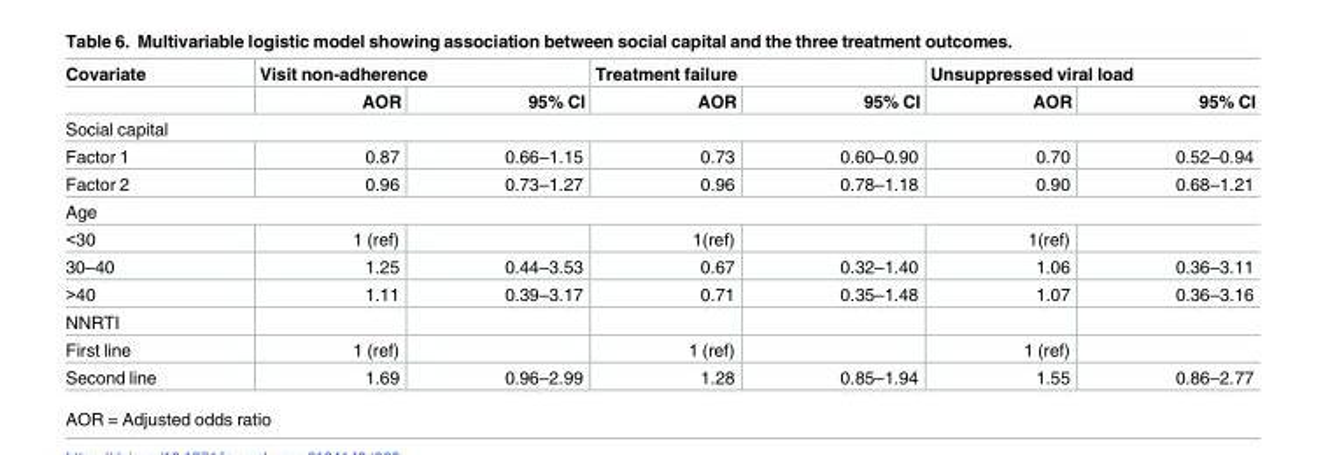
<table><thead><tr><td rowspan="2">Covariate</td><td colspan="2">Visit non-adherence</td><td colspan="2">Treatment failure</td><td colspan="2">Unsuppressed viral load</td></tr><tr><td>AOR</td><td>95% CI</td><td>AOR</td><td>95% CI</td><td>AOR</td><td>95% CI</td></tr></thead><tbody><tr><td colspan="7">Social capital</td></tr><tr><td>Factor 1</td><td>0.87</td><td>0.66–1.15</td><td>0.73</td><td>0.60–0.90</td><td>0.70</td><td>0.52–0.94</td></tr><tr><td>Factor 2</td><td>0.96</td><td>0.73–1.27</td><td>0.96</td><td>0.78–1.18</td><td>0.90</td><td>0.68–1.21</td></tr><tr><td colspan="7">Age</td></tr><tr><td>&lt;30</td><td>1 (ref)</td><td></td><td>1(ref)</td><td></td><td>1(ref)</td><td></td></tr><tr><td>30–40</td><td>1.25</td><td>0.44–3.53</td><td>0.67</td><td>0.32–1.40</td><td>1.06</td><td>0.36–3.11</td></tr><tr><td>&gt;40</td><td>1.11</td><td>0.39–3.17</td><td>0.71</td><td>0.35–1.48</td><td>1.07</td><td>0.36–3.16</td></tr><tr><td colspan="7">NNRTI</td></tr><tr><td>First line</td><td>1 (ref)</td><td></td><td>1 (ref)</td><td></td><td>1 (ref)</td><td></td></tr><tr><td>Second line</td><td>1.69</td><td>0.96–2.99</td><td>1.28</td><td>0.85–1.94</td><td>1.55</td><td>0.86–2.77</td></tr></tbody></table>